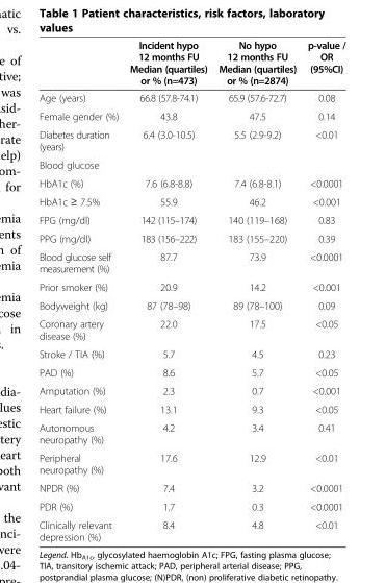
<table><thead><tr><td></td><td>Incident hypo 12 months FU Median (quartiles) or % (n=473)</td><td>No hypo 12 months FU Median (quartiles) or % (n=2874)</td><td>p-value / OR (95%CI)</td></tr></thead><tbody><tr><td>Age (years)</td><td>66.8 (57.8-74.1)</td><td>65.9 (57.6-72.7)</td><td>0.08</td></tr><tr><td>Female gender (%)</td><td>43.8</td><td>47.5</td><td>0.14</td></tr><tr><td>Diabetes duration (years)</td><td>6.4 (3.0-10.5)</td><td>5.5 (2.9-9.2)</td><td>&lt;0.01</td></tr><tr><td colspan="4">Blood glucose</td></tr><tr><td>HbA1c (%)</td><td>7.6 (6.8-8.8)</td><td>7.4 (6.8-8.1)</td><td>&lt;0.0001</td></tr><tr><td>HbA1c ≥ 7.5%</td><td>55.9</td><td>46.2</td><td>&lt;0.001</td></tr><tr><td>FPG (mg/dl)</td><td>142 (115–174)</td><td>140 (119–168)</td><td>0.83</td></tr><tr><td>PPG (mg/dl)</td><td>183 (156–222)</td><td>183 (155–220)</td><td>0.39</td></tr><tr><td>Blood glucose self measurement (%)</td><td>87.7</td><td>73.9</td><td>&lt;0.0001</td></tr><tr><td>Prior smoker (%)</td><td>20.9</td><td>14.2</td><td>&lt;0.001</td></tr><tr><td>Bodyweight (kg)</td><td>87 (78–98)</td><td>89 (78–100)</td><td>0.09</td></tr><tr><td>Coronary artery disease (%)</td><td>22.0</td><td>17.5</td><td>&lt;0.05</td></tr><tr><td>Stroke / TIA (%)</td><td>5.7</td><td>4.5</td><td>0.23</td></tr><tr><td>PAD (%)</td><td>8.6</td><td>5.7</td><td>&lt;0.05</td></tr><tr><td>Amputation (%)</td><td>2.3</td><td>0.7</td><td>&lt;0.001</td></tr><tr><td>Heart failure (%)</td><td>13.1</td><td>9.3</td><td>&lt;0.05</td></tr><tr><td>Autonomous neuropathy (%)</td><td>4.2</td><td>3.4</td><td>0.41</td></tr><tr><td>Peripheral neuropathy (%)</td><td>17.6</td><td>12.9</td><td>&lt;0.01</td></tr><tr><td>NPDR (%)</td><td>7.4</td><td>3.2</td><td>&lt;0.0001</td></tr><tr><td>PDR (%)</td><td>1.7</td><td>0.3</td><td>&lt;0.0001</td></tr><tr><td>Clinically relevant depression (%)</td><td>8.4</td><td>4.8</td><td>&lt;0.01</td></tr></tbody></table>